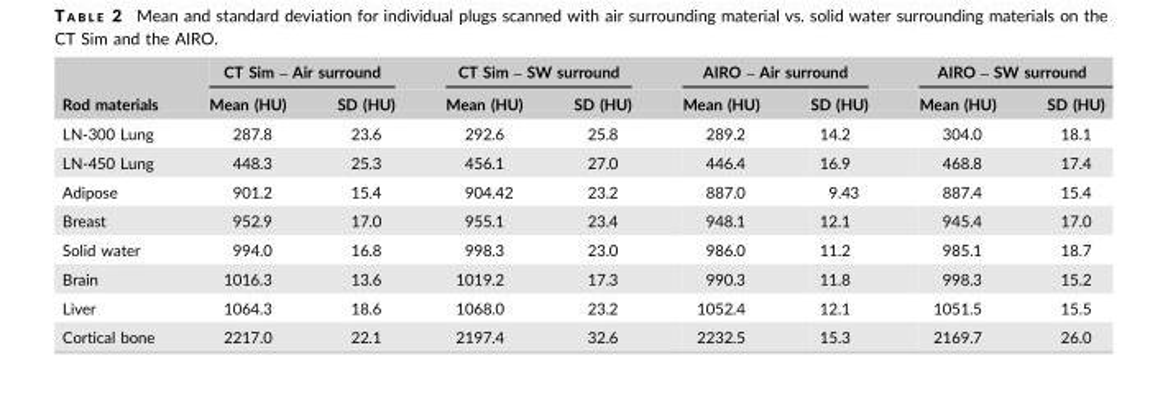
<table><thead><tr><td rowspan="2">Rod materials</td><td colspan="2">CT Sim – Air surround</td><td colspan="2">CT Sim – SW surround</td><td colspan="2">AIRO – Air surround</td><td colspan="2">AIRO – SW surround</td></tr><tr><td>Mean (HU)</td><td>SD (HU)</td><td>Mean (HU)</td><td>SD (HU)</td><td>Mean (HU)</td><td>SD (HU)</td><td>Mean (HU)</td><td>SD (HU)</td></tr></thead><tbody><tr><td>LN-300 Lung</td><td>287.8</td><td>23.6</td><td>292.6</td><td>25.8</td><td>289.2</td><td>14.2</td><td>304.0</td><td>18.1</td></tr><tr><td>LN-450 Lung</td><td>448.3</td><td>25.3</td><td>456.1</td><td>27.0</td><td>446.4</td><td>16.9</td><td>468.8</td><td>17.4</td></tr><tr><td>Adipose</td><td>901.2</td><td>15.4</td><td>904.42</td><td>23.2</td><td>887.0</td><td>9.43</td><td>887.4</td><td>15.4</td></tr><tr><td>Breast</td><td>952.9</td><td>17.0</td><td>955.1</td><td>23.4</td><td>948.1</td><td>12.1</td><td>945.4</td><td>17.0</td></tr><tr><td>Solid water</td><td>994.0</td><td>16.8</td><td>998.3</td><td>23.0</td><td>986.0</td><td>11.2</td><td>985.1</td><td>18.7</td></tr><tr><td>Brain</td><td>1016.3</td><td>13.6</td><td>1019.2</td><td>17.3</td><td>990.3</td><td>11.8</td><td>998.3</td><td>15.2</td></tr><tr><td>Liver</td><td>1064.3</td><td>18.6</td><td>1068.0</td><td>23.2</td><td>1052.4</td><td>12.1</td><td>1051.5</td><td>15.5</td></tr><tr><td>Cortical bone</td><td>2217.0</td><td>22.1</td><td>2197.4</td><td>32.6</td><td>2232.5</td><td>15.3</td><td>2169.7</td><td>26.0</td></tr></tbody></table>